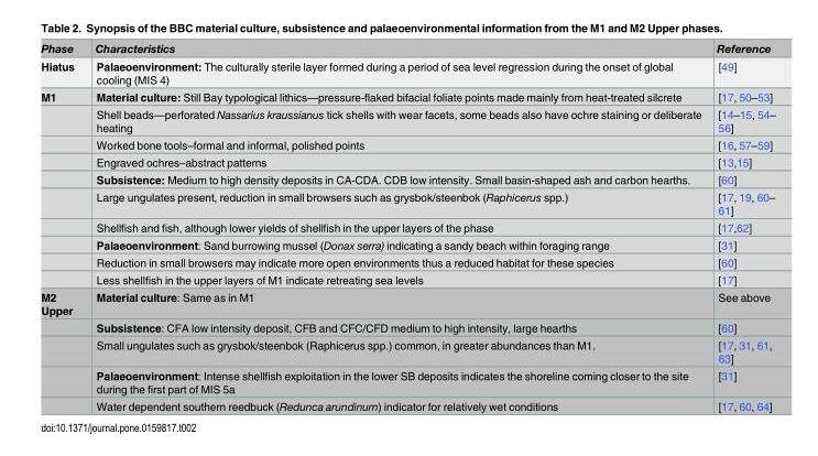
<table><thead><tr><td>Phase</td><td>Characteristics</td><td>Reference</td></tr></thead><tbody><tr><td>Hiatus</td><td>Palaeoenvironment: The culturally sterile layer formed during a period of sea level regression during the onset of global cooling (MIS 4)</td><td>[49]</td></tr><tr><td rowspan="10">M1</td><td>Material culture: Still Bay typological lithics—pressure-flaked bifacial foliate points made mainly from heat-treated silcrete</td><td>[17, 50–53]</td></tr><tr><td>Shell beads—perforated Nassarius kraussianus tick shells with wear facets, some beads also have ochre staining or deliberate heating</td><td>[14–15, 54– 56]</td></tr><tr><td>Worked bone tools–formal and informal, polished points</td><td>[16, 57–59]</td></tr><tr><td>Engraved ochres–abstract patterns</td><td>[13,15]</td></tr><tr><td>Subsistence: Medium to high density deposits in CA-CDA. CDB low intensity. Small basin-shaped ash and carbon hearths.</td><td>[60]</td></tr><tr><td>Large ungulates present, reduction in small browsers such as grysbok/steenbok (Raphicerus spp.)</td><td>[17, 19, 60– 61]</td></tr><tr><td>Shellfish and fish, although lower yields of shellfish in the upper layers of the phase</td><td>[17,62]</td></tr><tr><td>Palaeoenvironment: Sand burrowing mussel (Donax serra) indicating a sandy beach within foraging range</td><td>[31]</td></tr><tr><td>Reduction in small browsers may indicate more open environments thus a reduced habitat for these species</td><td>[60]</td></tr><tr><td>Less shellfish in the upper layers of M1 indicate retreating sea levels</td><td>[17]</td></tr><tr><td rowspan="5">M2 Upper</td><td>Material culture: Same as in M1</td><td>See above</td></tr><tr><td>Subsistence: CFA low intensity deposit, CFB and CFC/CFD medium to high intensity, large hearths</td><td>[60]</td></tr><tr><td>Small ungulates such as grysbok/steenbok (Raphicerus spp.) common, in greater abundances than M1.</td><td>[17, 31, 61, 63]</td></tr><tr><td>Palaeoenvironment: Intense shellfish exploitation in the lower SB deposits indicates the shoreline coming closer to the site during the first part of MIS 5a</td><td>[31]</td></tr><tr><td>Water dependent southern reedbuck (Redunca arundinum) indicator for relatively wet conditions</td><td>[17, 60, 64]</td></tr></tbody></table>